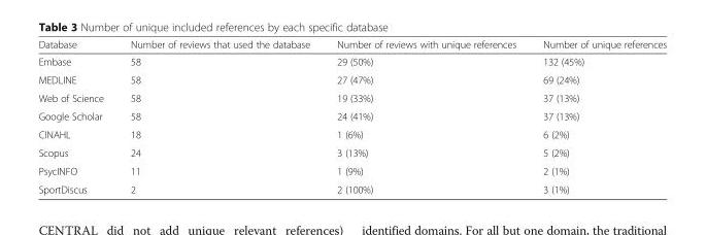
<table><thead><tr><td>Database</td><td>Number of reviews that used the database</td><td>Number of reviews with unique references</td><td>Number of unique references</td></tr></thead><tbody><tr><td>Embase</td><td>58</td><td>29 (50%)</td><td>132 (45%)</td></tr><tr><td>MEDLINE</td><td>58</td><td>27 (47%)</td><td>69 (24%)</td></tr><tr><td>Web of Science</td><td>58</td><td>19 (33%)</td><td>37 (13%)</td></tr><tr><td>Google Scholar</td><td>58</td><td>24 (41%)</td><td>37 (13%)</td></tr><tr><td>CINAHL</td><td>18</td><td>1 (6%)</td><td>6 (2%)</td></tr><tr><td>Scopus</td><td>24</td><td>3 (13%)</td><td>5 (2%)</td></tr><tr><td>PsycINFO</td><td>11</td><td>1 (9%)</td><td>2 (1%)</td></tr><tr><td>SportDiscus</td><td>2</td><td>2 (100%)</td><td>3 (1%)</td></tr></tbody></table>